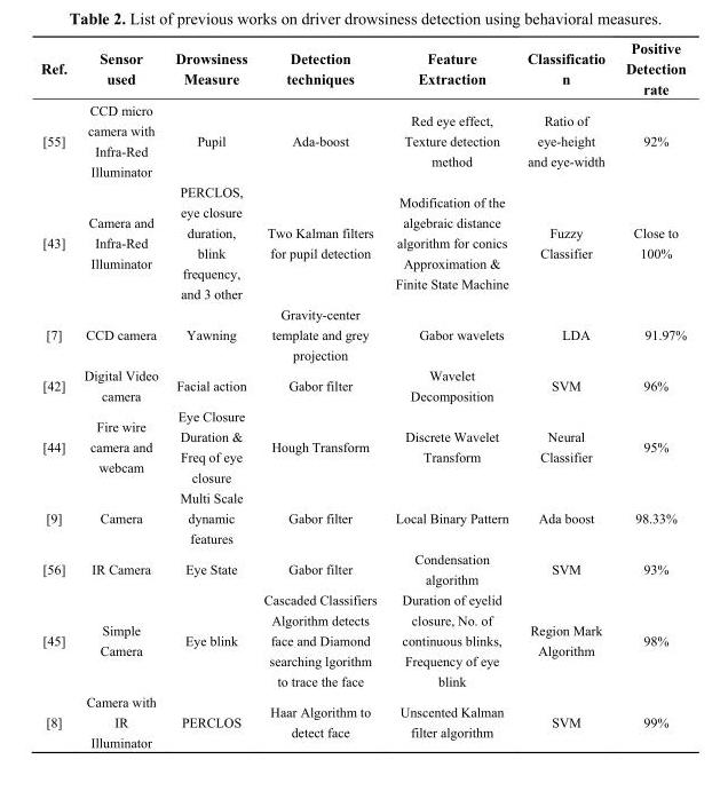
<table><thead><tr><td>Ref.</td><td>Sensor used</td><td>Drowsiness Measure</td><td>Detection techniques</td><td>Feature Extraction</td><td>Classificatio n</td><td>Positive Detection rate</td></tr></thead><tbody><tr><td>[55]</td><td>CCD micro camera with Infra-Red Illuminator</td><td>Pupil</td><td>Ada-boost</td><td>Red eye effect, Texture detection method</td><td>Ratio of eye-height and eye-width</td><td>92%</td></tr><tr><td>[43]</td><td>Camera and Infra-Red Illuminator</td><td>PERCLOS, eye closure duration, blink frequency, and 3 other</td><td>Two Kalman filters for pupil detection</td><td>Modification of the algebraic distance algorithm for conics Approximation &amp; Finite State Machine</td><td>Fuzzy Classifier</td><td>Close to 100%</td></tr><tr><td>[7]</td><td>CCD camera</td><td>Yawning</td><td>Gravity-center template and grey projection</td><td>Gabor wavelets</td><td>LDA</td><td>91.97%</td></tr><tr><td>[42]</td><td>Digital Video camera</td><td>Facial action</td><td>Gabor filter</td><td>Wavelet Decomposition</td><td>SVM</td><td>96%</td></tr><tr><td>[44]</td><td>Fire wire camera and webcam</td><td>Eye Closure Duration &amp; Freq of eye closure</td><td>Hough Transform</td><td>Discrete Wavelet Transform</td><td>Neural Classifier</td><td>95%</td></tr><tr><td>[9]</td><td>Camera</td><td>Multi Scale dynamic features</td><td>Gabor filter</td><td>Local Binary Pattern</td><td>Ada boost</td><td>98.33%</td></tr><tr><td>[56]</td><td>IR Camera</td><td>Eye State</td><td>Gabor filter</td><td>Condensation algorithm</td><td>SVM</td><td>93%</td></tr><tr><td>[45]</td><td>Simple Camera</td><td>Eye blink</td><td>Cascaded Classifiers Algorithm detects face and Diamond searching lgorithm to trace the face</td><td>Duration of eyelid closure, No. of continuous blinks, Frequency of eye blink</td><td>Region Mark Algorithm</td><td>98%</td></tr><tr><td>[8]</td><td>Camera with IR Illuminator</td><td>PERCLOS</td><td>Haar Algorithm to detect face</td><td>Unscented Kalman filter algorithm</td><td>SVM</td><td>99%</td></tr></tbody></table>